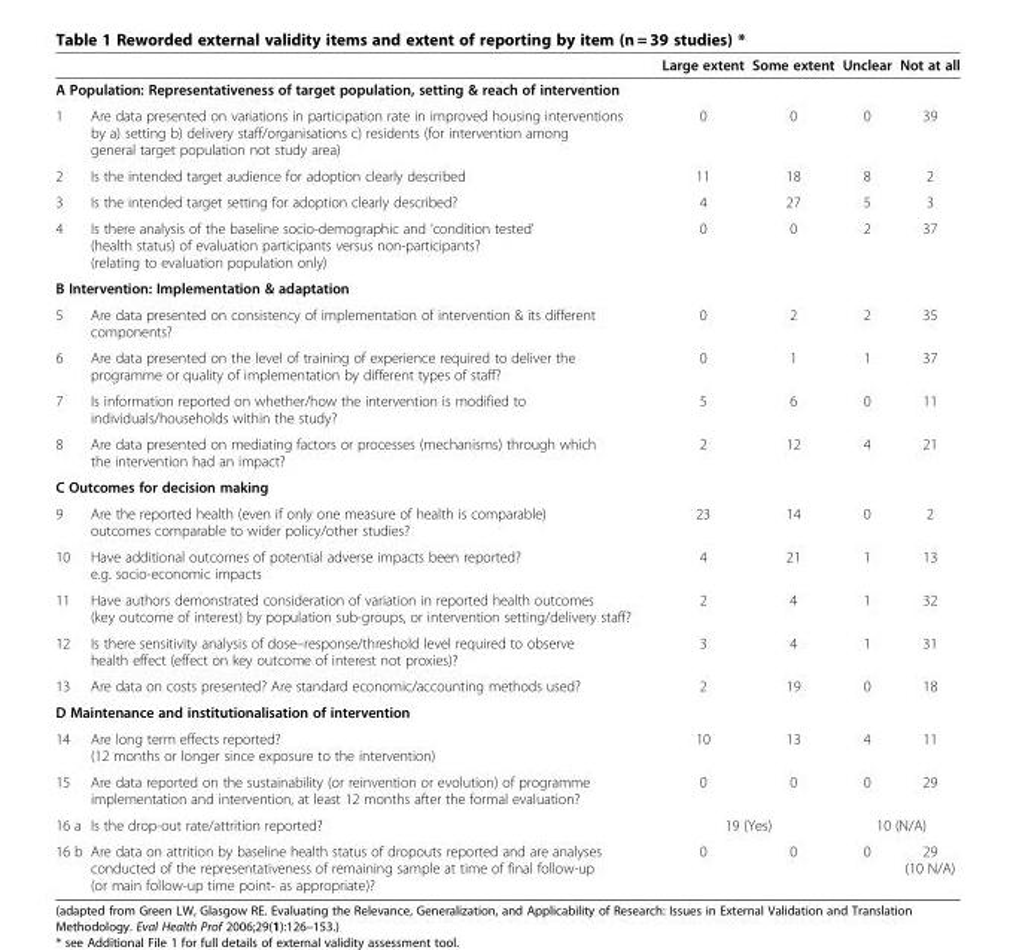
<table><thead><tr><td></td><td></td><td>Large extent</td><td>Some extent</td><td>Unclear</td><td>Not at all</td></tr></thead><tbody><tr><td colspan="6">A Population: Representativeness of target population, setting &amp; reach of intervention</td></tr><tr><td>1</td><td>Are data presented on variations in participation rate in improved housing interventions by a) setting b) delivery staff/organisations c) residents (for intervention among general target population not study area)</td><td>0</td><td>0</td><td>0</td><td>39</td></tr><tr><td>2</td><td>Is the intended target audience for adoption clearly described</td><td>11</td><td>18</td><td>8</td><td>2</td></tr><tr><td>3</td><td>Is the intended target setting for adoption clearly described?</td><td>4</td><td>27</td><td>5</td><td>3</td></tr><tr><td>4</td><td>Is there analysis of the baseline socio-demographic and ‘condition tested’ (health status) of evaluation participants versus non-participants? (relating to evaluation population only)</td><td>0</td><td>0</td><td>2</td><td>37</td></tr><tr><td colspan="6">B Intervention: Implementation &amp; adaptation</td></tr><tr><td>5</td><td>Are data presented on consistency of implementation of intervention &amp; its different components?</td><td>0</td><td>2</td><td>2</td><td>35</td></tr><tr><td>6</td><td>Are data presented on the level of training of experience required to deliver the programme or quality of implementation by different types of staff?</td><td>0</td><td>1</td><td>1</td><td>37</td></tr><tr><td>7</td><td>Is information reported on whether/how the intervention is modified to individuals/households within the study?</td><td>5</td><td>6</td><td>0</td><td>11</td></tr><tr><td>8</td><td>Are data presented on mediating factors or processes (mechanisms) through which the intervention had an impact?</td><td>2</td><td>12</td><td>4</td><td>21</td></tr><tr><td colspan="6">C Outcomes for decision making</td></tr><tr><td>9</td><td>Are the reported health (even if only one measure of health is comparable) outcomes comparable to wider policy/other studies?</td><td>23</td><td>14</td><td>0</td><td>2</td></tr><tr><td>10</td><td>Have additional outcomes of potential adverse impacts been reported? e.g. socio-economic impacts</td><td>4</td><td>21</td><td>1</td><td>13</td></tr><tr><td>11</td><td>Have authors demonstrated consideration of variation in reported health outcomes (key outcome of interest) by population sub-groups, or intervention setting/delivery staff?</td><td>2</td><td>4</td><td>1</td><td>32</td></tr><tr><td>12</td><td>Is there sensitivity analysis of dose–response/threshold level required to observe health effect (effect on key outcome of interest not proxies)?</td><td>3</td><td>4</td><td>1</td><td>31</td></tr><tr><td>13</td><td>Are data on costs presented? Are standard economic/accounting methods used?</td><td>2</td><td>19</td><td>0</td><td>18</td></tr><tr><td colspan="6">D Maintenance and institutionalisation of intervention</td></tr><tr><td>14</td><td>Are long term effects reported? (12 months or longer since exposure to the intervention)</td><td>10</td><td>13</td><td>4</td><td>11</td></tr><tr><td>15</td><td>Are data reported on the sustainability (or reinvention or evolution) of programme implementation and intervention, at least 12 months after the formal evaluation?</td><td>0</td><td>0</td><td>0</td><td>29</td></tr><tr><td>16 a</td><td>Is the drop-out rate/attrition reported?</td><td colspan="2">19 (Yes)</td><td colspan="2">10 (N/A)</td></tr><tr><td>16 b</td><td>Are data on attrition by baseline health status of dropouts reported and are analyses conducted of the representativeness of remaining sample at time of final follow-up (or main follow-up time point- as appropriate)?</td><td>0</td><td>0</td><td>0</td><td>29 (10 N/A)</td></tr></tbody></table>